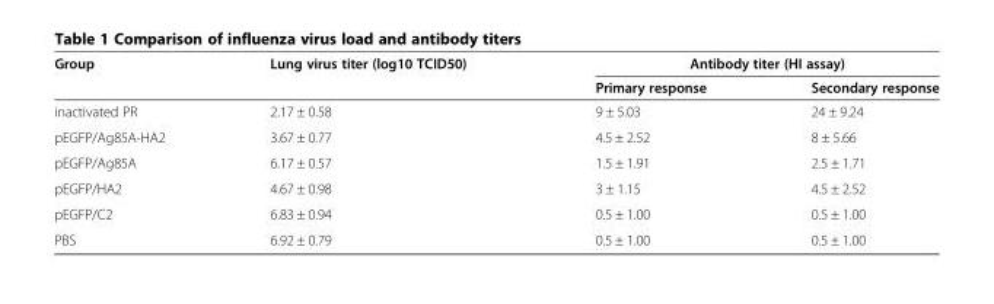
<table><thead><tr><td rowspan="2">Group</td><td rowspan="2">Lung virus titer (log10 TCID50)</td><td colspan="2">Antibody titer (HI assay)</td></tr><tr><td>Primary response</td><td>Secondary response</td></tr></thead><tbody><tr><td>inactivated PR</td><td>2.17 ± 0.58</td><td>9 ± 5.03</td><td>24 ± 9.24</td></tr><tr><td>pEGFP/Ag85A-HA2</td><td>3.67 ± 0.77</td><td>4.5 ± 2.52</td><td>8 ± 5.66</td></tr><tr><td>pEGFP/Ag85A</td><td>6.17 ± 0.57</td><td>1.5 ± 1.91</td><td>2.5 ± 1.71</td></tr><tr><td>pEGFP/HA2</td><td>4.67 ± 0.98</td><td>3 ± 1.15</td><td>4.5 ± 2.52</td></tr><tr><td>pEGFP/C2</td><td>6.83 ± 0.94</td><td>0.5 ± 1.00</td><td>0.5 ± 1.00</td></tr><tr><td>PBS</td><td>6.92 ± 0.79</td><td>0.5 ± 1.00</td><td>0.5 ± 1.00</td></tr></tbody></table>